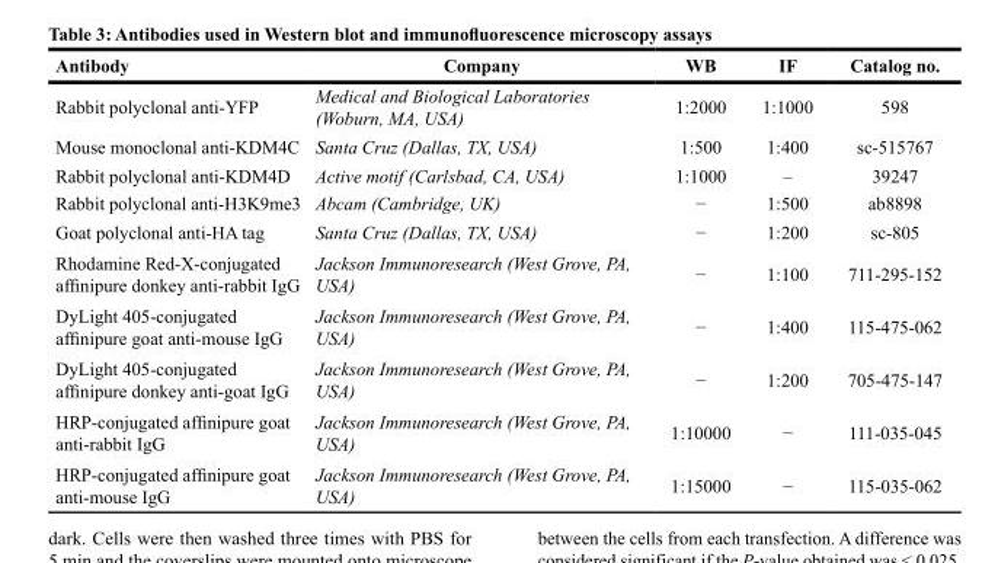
<table><thead><tr><td>Antibody</td><td>Company</td><td>WB</td><td>IF</td><td>Catalog no.</td></tr></thead><tbody><tr><td>Rabbit polyclonal anti-YFP</td><td>Medical and Biological Laboratories (Woburn, MA, USA)</td><td>1:2000</td><td>1:1000</td><td>598</td></tr><tr><td>Mouse monoclonal anti-KDM4C</td><td>Santa Cruz (Dallas, TX, USA)</td><td>1:500</td><td>1:400</td><td>sc-515767</td></tr><tr><td>Rabbit polyclonal anti-KDM4D</td><td>Active motif (Carlsbad, CA, USA)</td><td>1:1000</td><td>–</td><td>39247</td></tr><tr><td>Rabbit polyclonal anti-H3K9me3</td><td>Abcam (Cambridge, UK)</td><td>−</td><td>1:500</td><td>ab8898</td></tr><tr><td>Goat polyclonal anti-HA tag</td><td>Santa Cruz (Dallas, TX, USA)</td><td>−</td><td>1:200</td><td>sc-805</td></tr><tr><td>Rhodamine Red-X-conjugated affinipure donkey anti-rabbit IgG</td><td>Jackson Immunoresearch (West Grove, PA, USA)</td><td>−</td><td>1:100</td><td>711-295-152</td></tr><tr><td>DyLight 405-conjugated affinipure goat anti-mouse IgG</td><td>Jackson Immunoresearch (West Grove, PA, USA)</td><td>−</td><td>1:400</td><td>115-475-062</td></tr><tr><td>DyLight 405-conjugated affinipure donkey anti-goat IgG</td><td>Jackson Immunoresearch (West Grove, PA, USA)</td><td>−</td><td>1:200</td><td>705-475-147</td></tr><tr><td>HRP-conjugated affinipure goat anti-rabbit IgG</td><td>Jackson Immunoresearch (West Grove, PA, USA)</td><td>1:10000</td><td>−</td><td>111-035-045</td></tr><tr><td>HRP-conjugated affinipure goat anti-mouse IgG</td><td>Jackson Immunoresearch (West Grove, PA, USA)</td><td>1:15000</td><td>−</td><td>115-035-062</td></tr></tbody></table>